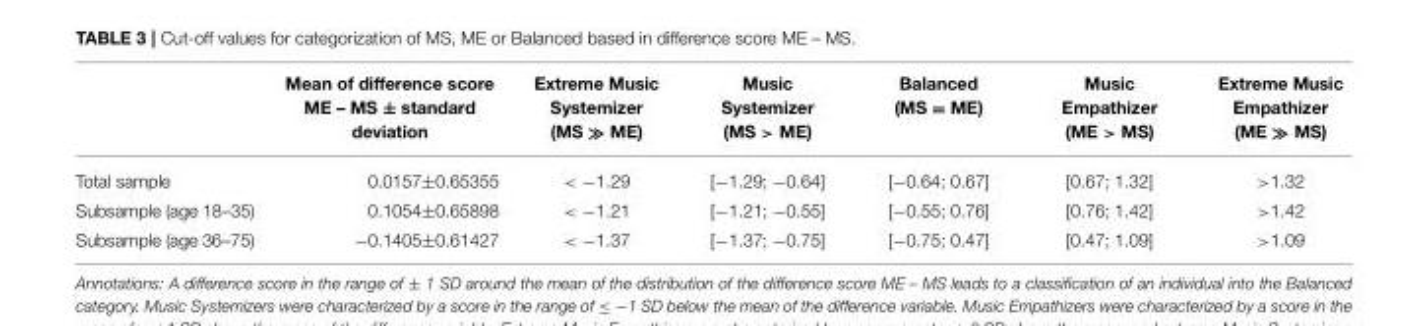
<table><thead><tr><td></td><td>Mean of difference score ME – MS ± standard deviation</td><td>Extreme Music Systemizer (MS ≫ ME)</td><td>Music Systemizer (MS &gt; ME)</td><td>Balanced (MS = ME)</td><td>Music Empathizer (ME &gt; MS)</td><td>Extreme Music Empathizer (ME ≫ MS)</td></tr></thead><tbody><tr><td>Total sample</td><td>0.0157±0.65355</td><td>&lt; −1.29</td><td>[−1.29; −0.64]</td><td>[−0.64; 0.67]</td><td>[0.67; 1.32]</td><td>&gt;1.32</td></tr><tr><td>Subsample (age 18–35)</td><td>0.1054±0.65898</td><td>&lt; −1.21</td><td>[−1.21; −0.55]</td><td>[−0.55; 0.76]</td><td>[0.76; 1.42]</td><td>&gt;1.42</td></tr><tr><td>Subsample (age 36–75)</td><td>−0.1405±0.61427</td><td>&lt; −1.37</td><td>[−1.37; −0.75]</td><td>[−0.75; 0.47]</td><td>[0.47; 1.09]</td><td>&gt;1.09</td></tr></tbody></table>